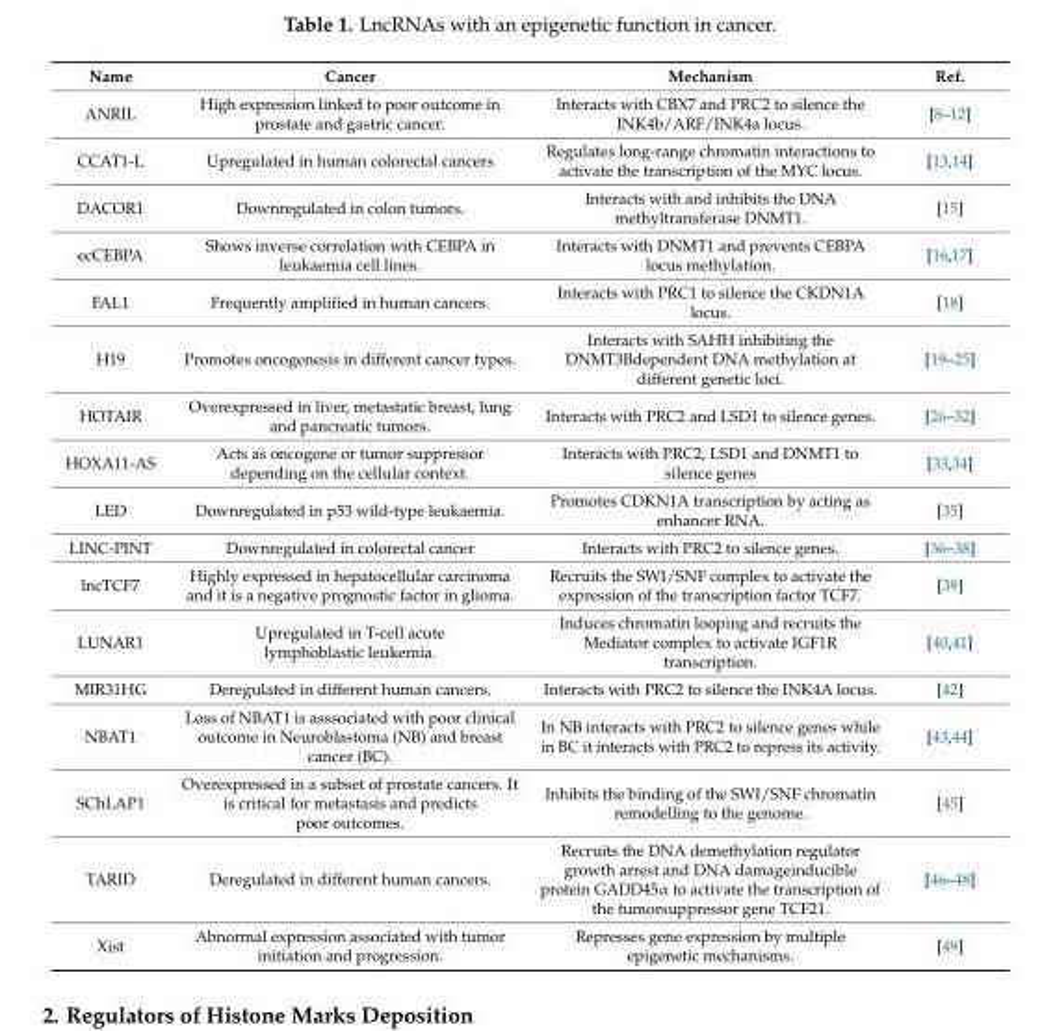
<table><thead><tr><td>Name</td><td>Cancer</td><td>Mechanism</td><td>Ref.</td></tr></thead><tbody><tr><td>ANRIL</td><td>High expression linked to poor outcome in prostate and gastric cancer.</td><td>Interacts with CBX7 and PRC2 to silence the INK4b/ARF/INK4a locus.</td><td>[8–12]</td></tr><tr><td>CCAT1-L</td><td>Upregulated in human colorectal cancers</td><td>Regulates long-range chromatin interactions to activate the transcription of the MYC locus.</td><td>[13,14]</td></tr><tr><td>DACOR1</td><td>Downregulated in colon tumors.</td><td>Interacts with and inhibits the DNA methyltransferase DNMT1.</td><td>[15]</td></tr><tr><td>ecCEBPA</td><td>Shows inverse correlation with CEBPA in leukaemia cell lines.</td><td>Interacts with DNMT1 and prevents CEBPA locus methylation.</td><td>[16,17]</td></tr><tr><td>FAL1</td><td>Frequently amplified in human cancers.</td><td>Interacts with PRC1 to silence the CKDN1A locus.</td><td>[18]</td></tr><tr><td>H19</td><td>Promotes oncogenesis in different cancer types.</td><td>Interacts with SAHH inhibiting the DNMT3Bdependent DNA methylation at different genetic loci.</td><td>[19–25]</td></tr><tr><td>HOTAIR</td><td>Overexpressed in liver, metastatic breast, lung and pancreatic tumors.</td><td>Interacts with PRC2 and LSD1 to silence genes.</td><td>[26–32]</td></tr><tr><td>HOXA11-AS</td><td>Acts as oncogene or tumor suppressor depending on the cellular context.</td><td>Interacts with PRC2, LSD1 and DNMT1 to silence genes</td><td>[33,34]</td></tr><tr><td>LED</td><td>Downregulated in p53 wild-type leukaemia.</td><td>Promotes CDKN1A transcription by acting as enhancer RNA.</td><td>[35]</td></tr><tr><td>LINC-PINT</td><td>Downregulated in colorectal cancer</td><td>Interacts with PRC2 to silence genes.</td><td>[36–38]</td></tr><tr><td>lncTCF7</td><td>Highly expressed in hepatocellular carcinoma and it is a negative prognostic factor in glioma.</td><td>Recruits the SWI/SNF complex to activate the expression of the transcription factor TCF7.</td><td>[39]</td></tr><tr><td>LUNAR1</td><td>Upregulated in T-cell acute lymphoblastic leukemia.</td><td>Induces chromatin looping and recruits the Mediator complex to activate IGF1R transcription.</td><td>[40,41]</td></tr><tr><td>MIR31HG</td><td>Deregulated in different human cancers.</td><td>Interacts with PRC2 to silence the INK4A locus.</td><td>[42]</td></tr><tr><td>NBAT1</td><td>Loss of NBAT1 is asssociated with poor clinical outcome in Neuroblastoma (NB) and breast cancer (BC).</td><td>In NB interacts with PRC2 to silence genes while in BC it interacts with PRC2 to repress its activity.</td><td>[43,44]</td></tr><tr><td>SChLAP1</td><td>Overexpressed in a subset of prostate cancers. It is critical for metastasis and predicts poor outcomes.</td><td>Inhibits the binding of the SWI/SNF chromatin remodelling to the genome.</td><td>[45]</td></tr><tr><td>TARID</td><td>Deregulated in different human cancers.</td><td>Recruits the DNA demethylation regulator growth arrest and DNA damageinducible protein GADD45α to activate the transcription of the tumorsuppressor gene TCF21.</td><td>[46–48]</td></tr><tr><td>Xist</td><td>Abnormal expression associated with tumor initiation and progression.</td><td>Represses gene expression by multiple epigenetic mechanisms.</td><td>[49]</td></tr></tbody></table>